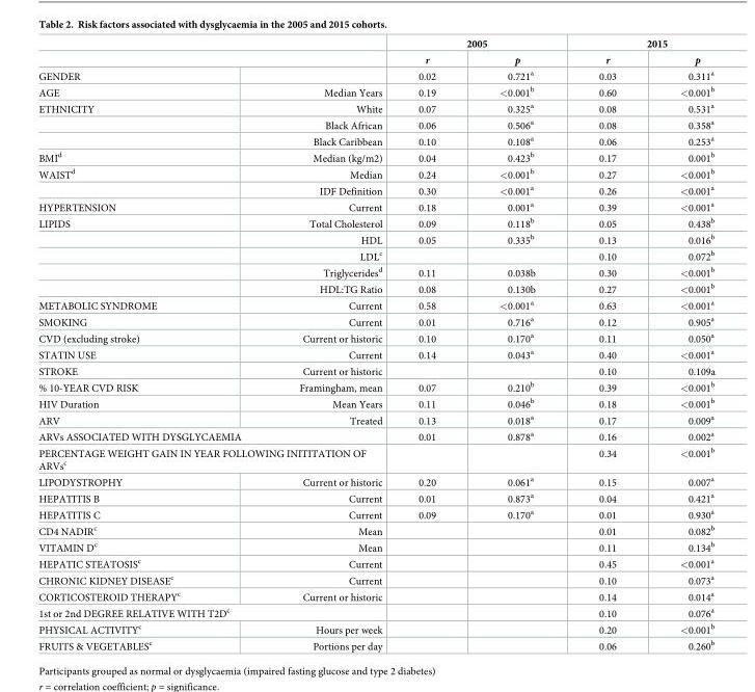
<table><thead><tr><td rowspan="2"></td><td rowspan="2"></td><td colspan="2">2005</td><td colspan="2">2015</td></tr><tr><td>r</td><td>p</td><td>r</td><td>p</td></tr></thead><tbody><tr><td>GENDER</td><td></td><td>0.02</td><td>0.721<sup>a</sup></td><td>0.03</td><td>0.311<sup>a</sup></td></tr><tr><td>AGE</td><td>Median Years</td><td>0.19</td><td>&lt;0.001<sup>b</sup></td><td>0.60</td><td>&lt;0.001<sup>b</sup></td></tr><tr><td rowspan="3">ETHNICITY</td><td>White</td><td>0.07</td><td>0.325<sup>a</sup></td><td>0.08</td><td>0.531<sup>a</sup></td></tr><tr><td>Black African</td><td>0.06</td><td>0.506<sup>a</sup></td><td>0.08</td><td>0.358<sup>a</sup></td></tr><tr><td>Black Caribbean</td><td>0.10</td><td>0.108<sup>a</sup></td><td>0.06</td><td>0.253<sup>a</sup></td></tr><tr><td>BMI<sup>d</sup></td><td>Median (kg/m2)</td><td>0.04</td><td>0.423<sup>b</sup></td><td>0.17</td><td>0.001<sup>b</sup></td></tr><tr><td rowspan="2">WAIST<sup>d</sup></td><td>Median</td><td>0.24</td><td>&lt;0.001<sup>b</sup></td><td>0.27</td><td>&lt;0.001<sup>b</sup></td></tr><tr><td>IDF Definition</td><td>0.30</td><td>&lt;0.001<sup>a</sup></td><td>0.26</td><td>&lt;0.001<sup>a</sup></td></tr><tr><td>HYPERTENSION</td><td>Current</td><td>0.18</td><td>0.001<sup>a</sup></td><td>0.39</td><td>&lt;0.001<sup>a</sup></td></tr><tr><td rowspan="5">LIPIDS</td><td>Total Cholesterol</td><td>0.09</td><td>0.118<sup>b</sup></td><td>0.05</td><td>0.438<sup>b</sup></td></tr><tr><td>HDL</td><td>0.05</td><td>0.335<sup>b</sup></td><td>0.13</td><td>0.016<sup>b</sup></td></tr><tr><td>LDL<sup>c</sup></td><td></td><td></td><td>0.10</td><td>0.072<sup>b</sup></td></tr><tr><td>Triglycerides<sup>d</sup></td><td>0.11</td><td>0.038<sup>b</sup></td><td>0.30</td><td>&lt;0.001<sup>b</sup></td></tr><tr><td>HDL:TG Ratio</td><td>0.08</td><td>0.130<sup>b</sup></td><td>0.27</td><td>&lt;0.001<sup>b</sup></td></tr><tr><td>METABOLIC SYNDROME</td><td>Current</td><td>0.58</td><td>&lt;0.001<sup>a</sup></td><td>0.63</td><td>&lt;0.001<sup>a</sup></td></tr><tr><td>SMOKING</td><td>Current</td><td>0.01</td><td>0.716<sup>a</sup></td><td>0.12</td><td>0.905<sup>a</sup></td></tr><tr><td>CVD (excluding stroke)</td><td>Current or historic</td><td>0.10</td><td>0.170<sup>a</sup></td><td>0.11</td><td>0.050<sup>a</sup></td></tr><tr><td>STATIN USE</td><td>Current</td><td>0.14</td><td>0.043<sup>a</sup></td><td>0.40</td><td>&lt;0.001<sup>a</sup></td></tr><tr><td>STROKE</td><td>Current or historic</td><td></td><td></td><td>0.10</td><td>0.109<sup>a</sup></td></tr><tr><td>% 10-YEAR CVD RISK</td><td>Framingham, mean</td><td>0.07</td><td>0.210<sup>b</sup></td><td>0.39</td><td>&lt;0.001<sup>b</sup></td></tr><tr><td>HIV Duration</td><td>Mean Years</td><td>0.11</td><td>0.046<sup>b</sup></td><td>0.18</td><td>&lt;0.001<sup>b</sup></td></tr><tr><td>ARV</td><td>Treated</td><td>0.13</td><td>0.018<sup>a</sup></td><td>0.17</td><td>0.009<sup>a</sup></td></tr><tr><td colspan="2">ARVs ASSOCIATED WITH DYSGLYCAEMIA</td><td>0.01</td><td>0.878<sup>a</sup></td><td>0.16</td><td>0.002<sup>a</sup></td></tr><tr><td colspan="2">PERCENTAGE WEIGHT GAIN IN YEAR FOLLOWING INITITATION OF ARVs<sup>c</sup></td><td></td><td></td><td>0.34</td><td>&lt;0.001<sup>b</sup></td></tr><tr><td>LIPODYSTROPHY</td><td>Current or historic</td><td>0.20</td><td>0.061<sup>a</sup></td><td>0.15</td><td>0.007<sup>a</sup></td></tr><tr><td>HEPATITIS B</td><td>Current</td><td>0.01</td><td>0.873<sup>a</sup></td><td>0.04</td><td>0.421<sup>a</sup></td></tr><tr><td>HEPATITIS C</td><td>Current</td><td>0.09</td><td>0.170<sup>a</sup></td><td>0.01</td><td>0.930<sup>a</sup></td></tr><tr><td>CD4 NADIR<sup>c</sup></td><td>Mean</td><td></td><td></td><td>0.01</td><td>0.082<sup>b</sup></td></tr><tr><td>VITAMIN D<sup>c</sup></td><td>Mean</td><td></td><td></td><td>0.11</td><td>0.134<sup>b</sup></td></tr><tr><td>HEPATIC STEATOSIS<sup>c</sup></td><td>Current</td><td></td><td></td><td>0.45</td><td>&lt;0.001<sup>a</sup></td></tr><tr><td>CHRONIC KIDNEY DISEASE<sup>c</sup></td><td>Current</td><td></td><td></td><td>0.10</td><td>0.073<sup>a</sup></td></tr><tr><td>CORTICOSTEROID THERAPY<sup>c</sup></td><td>Current or historic</td><td></td><td></td><td>0.14</td><td>0.014<sup>a</sup></td></tr><tr><td colspan="2">1st or 2nd DEGREE RELATIVE WITH T2D<sup>c</sup></td><td></td><td></td><td>0.10</td><td>0.076<sup>a</sup></td></tr><tr><td>PHYSICAL ACTIVITY<sup>c</sup></td><td>Hours per week</td><td></td><td></td><td>0.20</td><td>&lt;0.001<sup>b</sup></td></tr><tr><td>FRUITS &amp; VEGETABLES<sup>c</sup></td><td>Portions per day</td><td></td><td></td><td>0.06</td><td>0.260<sup>b</sup></td></tr></tbody></table>